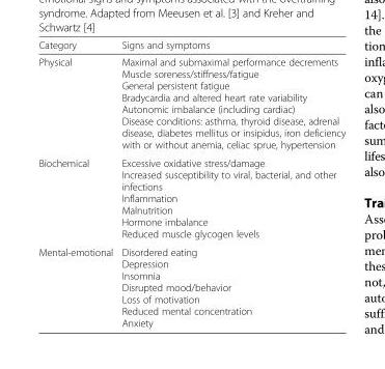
<table><thead><tr><td>Category</td><td>Signs and symptoms</td></tr></thead><tbody><tr><td>Physical</td><td>Maximal and submaximal performance decrements Muscle soreness/stiffness/fatigue General persistent fatigue Bradycardia and altered heart rate variability Autonomic imbalance (including cardiac) Disease conditions: asthma, thyroid disease, adrenal disease, diabetes mellitus or insipidus, iron deficiency with or without anemia, celiac sprue, hypertension</td></tr><tr><td>Biochemical</td><td>Excessive oxidative stress/damage Increased susceptibility to viral, bacterial, and other infections Inflammation Malnutrition Hormone imbalance Reduced muscle glycogen levels</td></tr><tr><td>Mental-emotional</td><td>Disordered eating Depression Insomnia Disrupted mood/behavior Loss of motivation Reduced mental concentration Anxiety</td></tr></tbody></table>